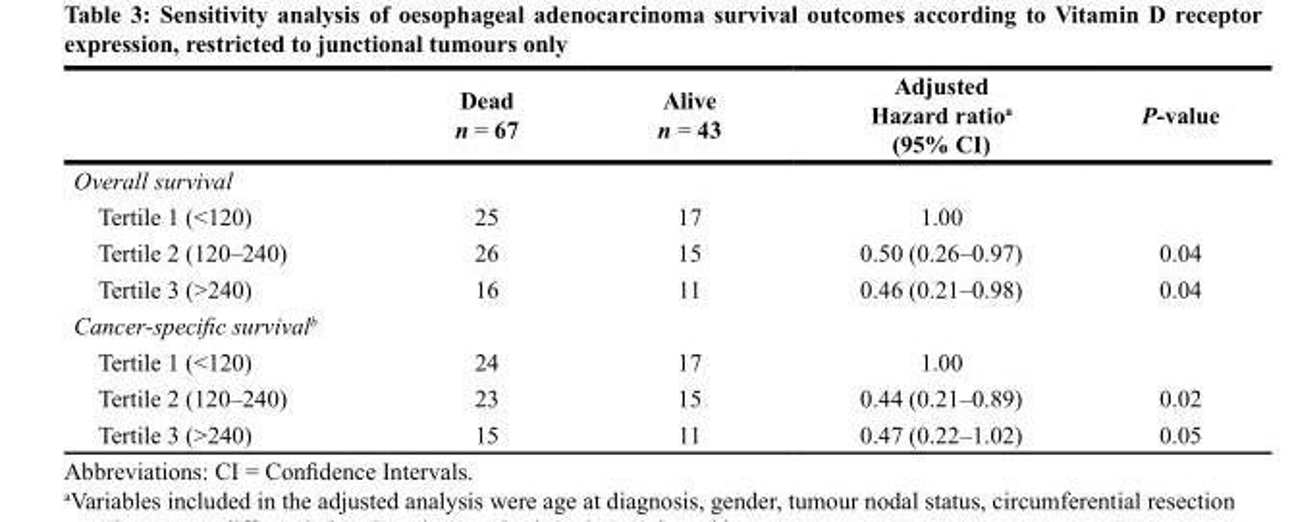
<table><thead><tr><td></td><td>Dead n = 67</td><td>Alive n = 43</td><td>Adjusted Hazard ratio<sup>a</sup> (95% CI)</td><td>P-value</td></tr></thead><tbody><tr><td colspan="5">Overall survival</td></tr><tr><td>Tertile 1 (&lt;120)</td><td>25</td><td>17</td><td>1.00</td><td></td></tr><tr><td>Tertile 2 (120–240)</td><td>26</td><td>15</td><td>0.50 (0.26–0.97)</td><td>0.04</td></tr><tr><td>Tertile 3 (&gt;240)</td><td>16</td><td>11</td><td>0.46 (0.21–0.98)</td><td>0.04</td></tr><tr><td colspan="5">Cancer-specific survival<sup>b</sup></td></tr><tr><td>Tertile 1 (&lt;120)</td><td>24</td><td>17</td><td>1.00</td><td></td></tr><tr><td>Tertile 2 (120–240)</td><td>23</td><td>15</td><td>0.44 (0.21–0.89)</td><td>0.02</td></tr><tr><td>Tertile 3 (&gt;240)</td><td>15</td><td>11</td><td>0.47 (0.22–1.02)</td><td>0.05</td></tr></tbody></table>